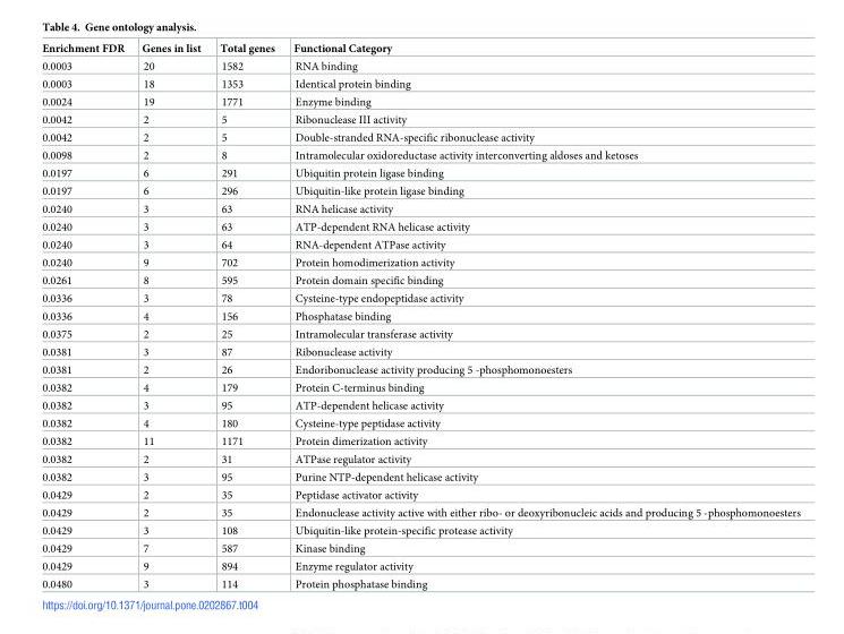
<table><thead><tr><td>Enrichment FDR</td><td>Genes in list</td><td>Total genes</td><td>Functional Category</td></tr></thead><tbody><tr><td>0.0003</td><td>20</td><td>1582</td><td>RNA binding</td></tr><tr><td>0.0003</td><td>18</td><td>1353</td><td>Identical protein binding</td></tr><tr><td>0.0024</td><td>19</td><td>1771</td><td>Enzyme binding</td></tr><tr><td>0.0042</td><td>2</td><td>5</td><td>Ribonuclease III activity</td></tr><tr><td>0.0042</td><td>2</td><td>5</td><td>Double-stranded RNA-specific ribonuclease activity</td></tr><tr><td>0.0098</td><td>2</td><td>8</td><td>Intramolecular oxidoreductase activity interconverting aldoses and ketoses</td></tr><tr><td>0.0197</td><td>6</td><td>291</td><td>Ubiquitin protein ligase binding</td></tr><tr><td>0.0197</td><td>6</td><td>296</td><td>Ubiquitin-like protein ligase binding</td></tr><tr><td>0.0240</td><td>3</td><td>63</td><td>RNA helicase activity</td></tr><tr><td>0.0240</td><td>3</td><td>63</td><td>ATP-dependent RNA helicase activity</td></tr><tr><td>0.0240</td><td>3</td><td>64</td><td>RNA-dependent ATPase activity</td></tr><tr><td>0.0240</td><td>9</td><td>702</td><td>Protein homodimerization activity</td></tr><tr><td>0.0261</td><td>8</td><td>595</td><td>Protein domain specific binding</td></tr><tr><td>0.0336</td><td>3</td><td>78</td><td>Cysteine-type endopeptidase activity</td></tr><tr><td>0.0336</td><td>4</td><td>156</td><td>Phosphatase binding</td></tr><tr><td>0.0375</td><td>2</td><td>25</td><td>Intramolecular transferase activity</td></tr><tr><td>0.0381</td><td>3</td><td>87</td><td>Ribonuclease activity</td></tr><tr><td>0.0381</td><td>2</td><td>26</td><td>Endoribonuclease activity producing 5 -phosphomonoesters</td></tr><tr><td>0.0382</td><td>4</td><td>179</td><td>Protein C-terminus binding</td></tr><tr><td>0.0382</td><td>3</td><td>95</td><td>ATP-dependent helicase activity</td></tr><tr><td>0.0382</td><td>4</td><td>180</td><td>Cysteine-type peptidase activity</td></tr><tr><td>0.0382</td><td>11</td><td>1171</td><td>Protein dimerization activity</td></tr><tr><td>0.0382</td><td>2</td><td>31</td><td>ATPase regulator activity</td></tr><tr><td>0.0382</td><td>3</td><td>95</td><td>Purine NTP-dependent helicase activity</td></tr><tr><td>0.0429</td><td>2</td><td>35</td><td>Peptidase activator activity</td></tr><tr><td>0.0429</td><td>2</td><td>35</td><td>Endonuclease activity active with either ribo- or deoxyribonucleic acids and producing 5 -phosphomonoesters</td></tr><tr><td>0.0429</td><td>3</td><td>108</td><td>Ubiquitin-like protein-specific protease activity</td></tr><tr><td>0.0429</td><td>7</td><td>587</td><td>Kinase binding</td></tr><tr><td>0.0429</td><td>9</td><td>894</td><td>Enzyme regulator activity</td></tr><tr><td>0.0480</td><td>3</td><td>114</td><td>Protein phosphatase binding</td></tr></tbody></table>